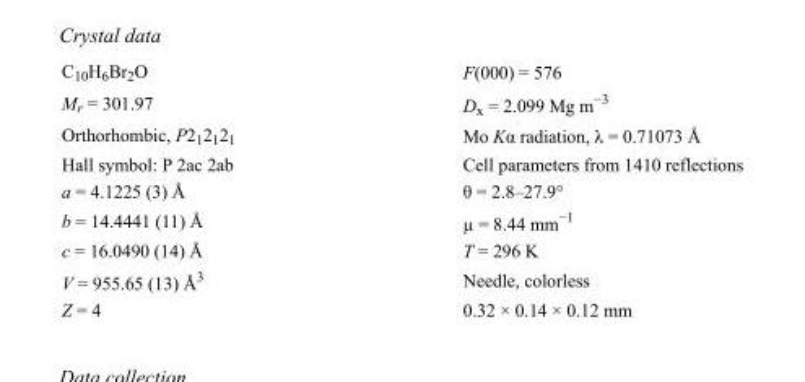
<table><tbody><tr><td>C<sub>10</sub>H<sub>6</sub>Br<sub>2</sub>O</td><td>F(000) = 576</td></tr><tr><td>M<sub>r</sub> = 301.97</td><td>D<sub>x</sub> = 2.099 Mg m<sup>−3</sup></td></tr><tr><td>Orthorhombic, P2<sub>1</sub>2<sub>1</sub>2<sub>1</sub></td><td>Mo Kα radiation, λ = 0.71073 Å</td></tr><tr><td>Hall symbol: P 2ac 2ab</td><td>Cell parameters from 1410 reflections</td></tr><tr><td>a = 4.1225 (3) Å</td><td>θ = 2.8–27.9°</td></tr><tr><td>b = 14.4441 (11) Å</td><td>µ = 8.44 mm<sup>−1</sup></td></tr><tr><td>c = 16.0490 (14) Å</td><td>T = 296 K</td></tr><tr><td>V = 955.65 (13) Å<sup>3</sup></td><td>Needle, colorless</td></tr><tr><td>Z = 4</td><td>0.32 × 0.14 × 0.12 mm</td></tr></tbody></table>